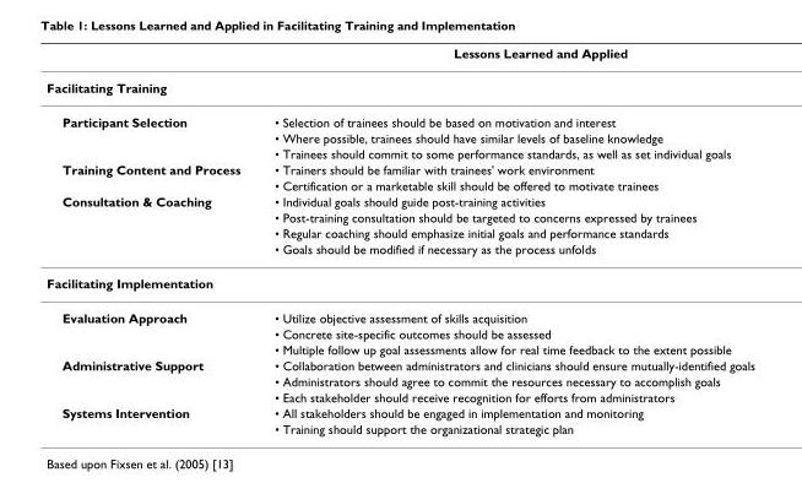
<table><thead><tr><td></td><td>Lessons Learned and Applied</td></tr></thead><tbody><tr><td colspan="2">Facilitating Training</td></tr><tr><td rowspan="3">Participant Selection</td><td>• Selection of trainees should be based on motivation and interest</td></tr><tr><td>• Where possible, trainees should have similar levels of baseline knowledge</td></tr><tr><td>• Trainees should commit to some performance standards, as well as set individual goals</td></tr><tr><td rowspan="2">Training Content and Process</td><td>• Trainers should be familiar with trainees&#x27; work environment</td></tr><tr><td>• Certification or a marketable skill should be offered to motivate trainees</td></tr><tr><td rowspan="4">Consultation &amp; Coaching</td><td>• Individual goals should guide post-training activities</td></tr><tr><td>• Post-training consultation should be targeted to concerns expressed by trainees</td></tr><tr><td>• Regular coaching should emphasize initial goals and performance standards</td></tr><tr><td>• Goals should be modified if necessary as the process unfolds</td></tr><tr><td colspan="2">Facilitating Implementation</td></tr><tr><td rowspan="3">Evaluation Approach</td><td>• Utilize objective assessment of skills acquisition</td></tr><tr><td>• Concrete site-specific outcomes should be assessed</td></tr><tr><td>• Multiple follow up goal assessments allow for real time feedback to the extent possible</td></tr><tr><td rowspan="3">Administrative Support</td><td>• Collaboration between administrators and clinicians should ensure mutually-identified goals</td></tr><tr><td>• Administrators should agree to commit the resources necessary to accomplish goals</td></tr><tr><td>• Each stakeholder should receive recognition for efforts from administrators</td></tr><tr><td rowspan="2">Systems Intervention</td><td>• All stakeholders should be engaged in implementation and monitoring</td></tr><tr><td>• Training should support the organizational strategic plan</td></tr></tbody></table>